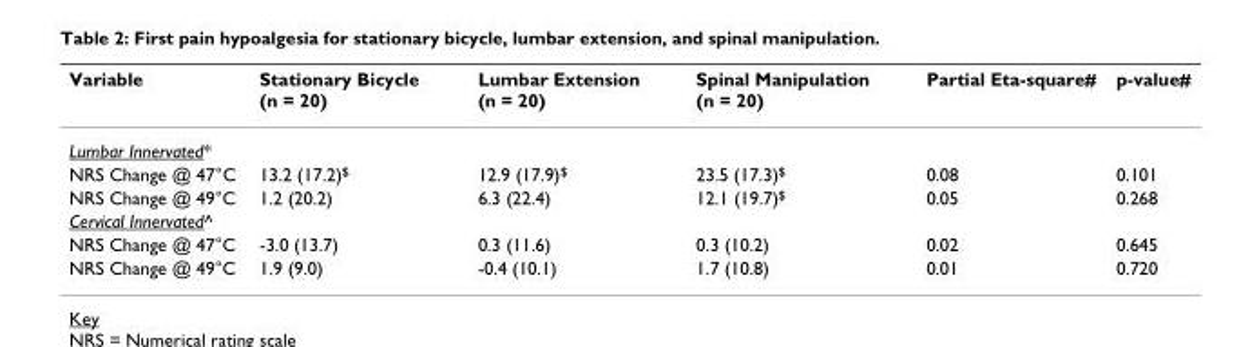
<table><thead><tr><td>Variable</td><td>Stationary Bicycle (n = 20)</td><td>Lumbar Extension (n = 20)</td><td>Spinal Manipulation (n = 20)</td><td>Partial Eta-square#</td><td>p-value#</td></tr></thead><tbody><tr><td colspan="6">Lumbar Innervated*</td></tr><tr><td>NRS Change @ 47°C</td><td>13.2 (17.2)$</td><td>12.9 (17.9)$</td><td>23.5 (17.3)$</td><td>0.08</td><td>0.101</td></tr><tr><td>NRS Change @ 49°C</td><td>1.2 (20.2)</td><td>6.3 (22.4)</td><td>12.1 (19.7)$</td><td>0.05</td><td>0.268</td></tr><tr><td colspan="6">Cervical Innervated^</td></tr><tr><td>NRS Change @ 47°C</td><td>-3.0 (13.7)</td><td>0.3 (11.6)</td><td>0.3 (10.2)</td><td>0.02</td><td>0.645</td></tr><tr><td>NRS Change @ 49°C</td><td>1.9 (9.0)</td><td>-0.4 (10.1)</td><td>1.7 (10.8)</td><td>0.01</td><td>0.720</td></tr></tbody></table>